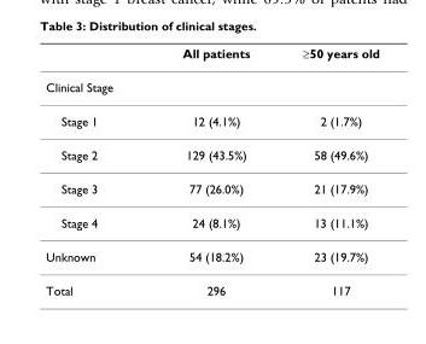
<table><thead><tr><td></td><td>All patients</td><td>≥50 years old</td></tr></thead><tbody><tr><td colspan="3">Clinical Stage</td></tr><tr><td>Stage 1</td><td>12 (4.1%)</td><td>2 (1.7%)</td></tr><tr><td>Stage 2</td><td>129 (43.5%)</td><td>58 (49.6%)</td></tr><tr><td>Stage 3</td><td>77 (26.0%)</td><td>21 (17.9%)</td></tr><tr><td>Stage 4</td><td>24 (8.1%)</td><td>13 (11.1%)</td></tr><tr><td>Unknown</td><td>54 (18.2%)</td><td>23 (19.7%)</td></tr><tr><td>Total</td><td>296</td><td>117</td></tr></tbody></table>